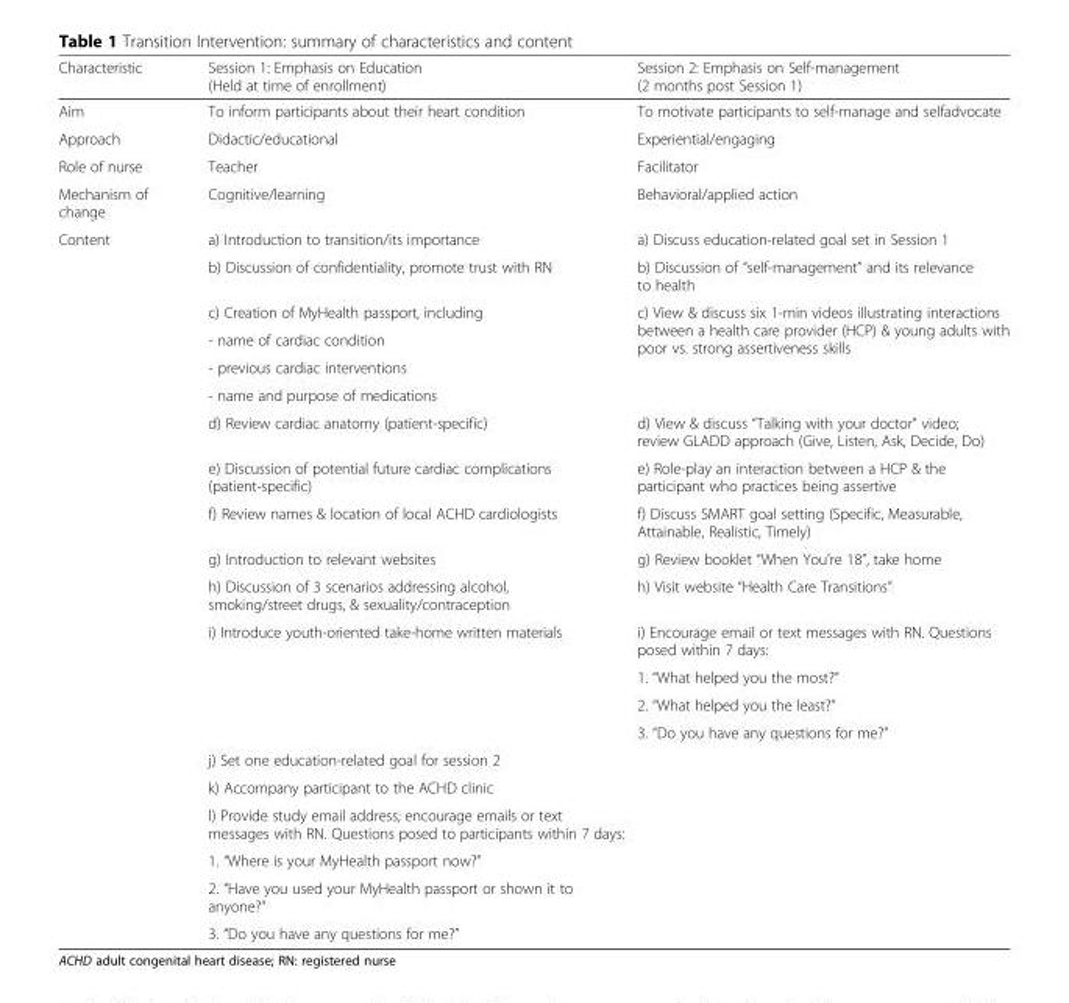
<table><thead><tr><td>Characteristic</td><td>Session 1: Emphasis on Education (Held at time of enrollment)</td><td>Session 2: Emphasis on Self-management (2 months post Session 1)</td></tr></thead><tbody><tr><td>Aim</td><td>To inform participants about their heart condition</td><td>To motivate participants to self-manage and selfadvocate</td></tr><tr><td>Approach</td><td>Didactic/educational</td><td>Experiential/engaging</td></tr><tr><td>Role of nurse</td><td>Teacher</td><td>Facilitator</td></tr><tr><td>Mechanism of change</td><td>Cognitive/learning</td><td>Behavioral/applied action</td></tr><tr><td rowspan="21">Content</td><td>a) Introduction to transition/its importance</td><td>a) Discuss education-related goal set in Session 1</td></tr><tr><td>b) Discussion of confidentiality, promote trust with RN</td><td>b) Discussion of “self-management” and its relevance to health</td></tr><tr><td>c) Creation of MyHealth passport, including</td><td rowspan="4">c) View &amp; discuss six 1-min videos illustrating interactions between a health care provider (HCP) &amp; young adults with poor vs. strong assertiveness skills</td></tr><tr><td>- name of cardiac condition</td></tr><tr><td>- previous cardiac interventions</td></tr><tr><td>- name and purpose of medications</td></tr><tr><td>d) Review cardiac anatomy (patient-specific)</td><td>d) View &amp; discuss “Talking with your doctor” video; review GLADD approach (Give, Listen, Ask, Decide, Do)</td></tr><tr><td>e) Discussion of potential future cardiac complications (patient-specific)</td><td>e) Role-play an interaction between a HCP &amp; the participant who practices being assertive</td></tr><tr><td>f) Review names &amp; location of local ACHD cardiologists</td><td>f) Discuss SMART goal setting (Specific, Measurable, Attainable, Realistic, Timely)</td></tr><tr><td>g) Introduction to relevant websites</td><td>g) Review booklet “When You’re 18”, take home</td></tr><tr><td>h) Discussion of 3 scenarios addressing alcohol, smoking/street drugs, &amp; sexuality/contraception</td><td>h) Visit website “Health Care Transitions”</td></tr><tr><td rowspan="4">i) Introduce youth-oriented take-home written materials</td><td>i) Encourage email or text messages with RN. Questions posed within 7 days:</td></tr><tr><td>1. “What helped you the most?”</td></tr><tr><td>2. “What helped you the least?”</td></tr><tr><td>3. “Do you have any questions for me?”</td></tr><tr><td>j) Set one education-related goal for session 2</td><td></td></tr><tr><td>k) Accompany participant to the ACHD clinic</td><td></td></tr><tr><td>l) Provide study email address; encourage emails or text messages with RN. Questions posed to participants within 7 days:</td><td rowspan="4"></td></tr><tr><td>1. “Where is your MyHealth passport now?”</td></tr><tr><td>2. “Have you used your MyHealth passport or shown it to anyone?”</td></tr><tr><td>3. “Do you have any questions for me?”</td></tr></tbody></table>